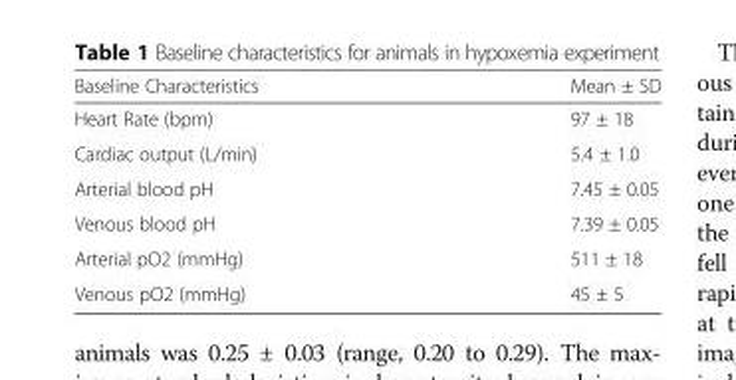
<table><thead><tr><td>Baseline Characteristics</td><td>Mean ± SD</td></tr></thead><tbody><tr><td>Heart Rate (bpm)</td><td>97 ± 18</td></tr><tr><td>Cardiac output (L/min)</td><td>5.4 ± 1.0</td></tr><tr><td>Arterial blood pH</td><td>7.45 ± 0.05</td></tr><tr><td>Venous blood pH</td><td>7.39 ± 0.05</td></tr><tr><td>Arterial pO2 (mmHg)</td><td>511 ± 18</td></tr><tr><td>Venous pO2 (mmHg)</td><td>45 ± 5</td></tr></tbody></table>